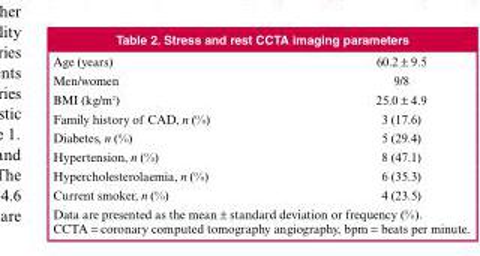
<table><tbody><tr><td>Age (years)</td><td>60.2 ± 9.5</td></tr><tr><td>Men/women</td><td>9/8</td></tr><tr><td>BMI (kg/m2)</td><td>25.0 ± 4.9</td></tr><tr><td>Family history of CAD, n (%)</td><td>3 (17.6)</td></tr><tr><td>Diabetes, n (%)</td><td>5 (29.4)</td></tr><tr><td>Hypertension, n (%)</td><td>8 (47.1)</td></tr><tr><td>Hypercholesterolaemia, n (%)</td><td>6 (35.3)</td></tr><tr><td>Current smoker, n (%)</td><td>4 (23.5)</td></tr></tbody></table>